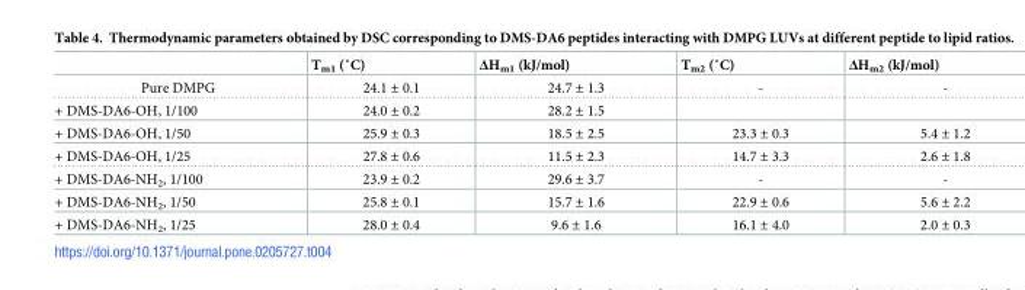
<table><thead><tr><td></td><td>Tm1 (˚C)</td><td>ΔH<sub>m1</sub> (kJ/mol)</td><td>Tm2 (˚C)</td><td>ΔH<sub>m2</sub> (kJ/mol)</td></tr></thead><tbody><tr><td>Pure DMPG</td><td>24.1 ± 0.1</td><td>24.7 ± 1.3</td><td>-</td><td>-</td></tr><tr><td>+ DMS-DA6-OH, 1/100</td><td>24.0 ± 0.2</td><td>28.2 ± 1.5</td><td></td><td></td></tr><tr><td>+ DMS-DA6-OH, 1/50</td><td>25.9 ± 0.3</td><td>18.5 ± 2.5</td><td>23.3 ± 0.3</td><td>5.4 ± 1.2</td></tr><tr><td>+ DMS-DA6-OH, 1/25</td><td>27.8 ± 0.6</td><td>11.5 ± 2.3</td><td>14.7 ± 3.3</td><td>2.6 ± 1.8</td></tr><tr><td>+ DMS-DA6-NH<sub>2</sub>, 1/100</td><td>23.9 ± 0.2</td><td>29.6 ± 3.7</td><td>-</td><td>-</td></tr><tr><td>+ DMS-DA6-NH<sub>2</sub>, 1/50</td><td>25.8 ± 0.1</td><td>15.7 ± 1.6</td><td>22.9 ± 0.6</td><td>5.6 ± 2.2</td></tr><tr><td>+ DMS-DA6-NH<sub>2</sub>, 1/25</td><td>28.0 ± 0.4</td><td>9.6 ± 1.6</td><td>16.1 ± 4.0</td><td>2.0 ± 0.3</td></tr></tbody></table>